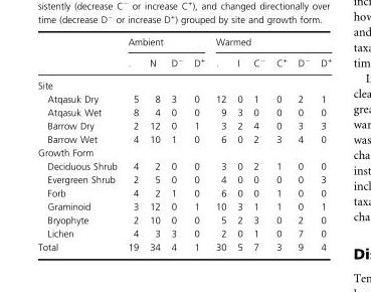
<table><thead><tr><td rowspan="2"></td><td colspan="4">Ambient</td><td colspan="6">Warmed</td></tr><tr><td>.</td><td>N</td><td>D<sup>−</sup></td><td>D<sup>+</sup></td><td>.</td><td>I</td><td>C<sup>−</sup></td><td>C<sup>+</sup></td><td>D<sup>−</sup></td><td>D<sup>+</sup></td></tr></thead><tbody><tr><td colspan="11">Site</td></tr><tr><td>Atqasuk Dry</td><td>5</td><td>8</td><td>3</td><td>0</td><td>12</td><td>0</td><td>1</td><td>0</td><td>2</td><td>1</td></tr><tr><td>Atqasuk Wet</td><td>8</td><td>4</td><td>0</td><td>0</td><td>9</td><td>3</td><td>0</td><td>0</td><td>0</td><td>0</td></tr><tr><td>Barrow Dry</td><td>2</td><td>12</td><td>0</td><td>1</td><td>3</td><td>2</td><td>4</td><td>0</td><td>3</td><td>3</td></tr><tr><td>Barrow Wet</td><td>4</td><td>10</td><td>1</td><td>0</td><td>6</td><td>0</td><td>2</td><td>3</td><td>4</td><td>0</td></tr><tr><td colspan="11">Growth Form</td></tr><tr><td>Deciduous Shrub</td><td>4</td><td>2</td><td>0</td><td>0</td><td>3</td><td>0</td><td>2</td><td>1</td><td>0</td><td>0</td></tr><tr><td>Evergreen Shrub</td><td>2</td><td>5</td><td>0</td><td>0</td><td>4</td><td>0</td><td>0</td><td>0</td><td>0</td><td>3</td></tr><tr><td>Forb</td><td>4</td><td>2</td><td>1</td><td>0</td><td>6</td><td>0</td><td>0</td><td>1</td><td>0</td><td>0</td></tr><tr><td>Graminoid</td><td>3</td><td>12</td><td>0</td><td>1</td><td>10</td><td>3</td><td>1</td><td>1</td><td>0</td><td>1</td></tr><tr><td>Bryophyte</td><td>2</td><td>10</td><td>0</td><td>0</td><td>5</td><td>2</td><td>3</td><td>0</td><td>2</td><td>0</td></tr><tr><td>Lichen</td><td>4</td><td>3</td><td>3</td><td>0</td><td>2</td><td>0</td><td>1</td><td>0</td><td>7</td><td>0</td></tr><tr><td>Total</td><td>19</td><td>34</td><td>4</td><td>1</td><td>30</td><td>5</td><td>7</td><td>3</td><td>9</td><td>4</td></tr></tbody></table>